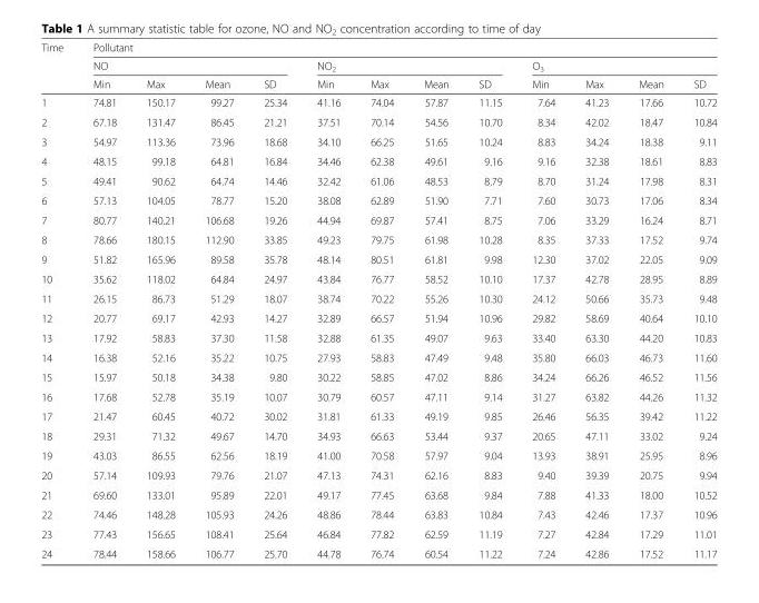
<table><thead><tr><td rowspan="3">Time</td><td colspan="12">Pollutant</td></tr><tr><td colspan="4">NO</td><td colspan="4">NO<sub>2</sub></td><td colspan="4">O<sub>3</sub></td></tr><tr><td>Min</td><td>Max</td><td>Mean</td><td>SD</td><td>Min</td><td>Max</td><td>Mean</td><td>SD</td><td>Min</td><td>Max</td><td>Mean</td><td>SD</td></tr></thead><tbody><tr><td>1</td><td>74.81</td><td>150.17</td><td>99.27</td><td>25.34</td><td>41.16</td><td>74.04</td><td>57.87</td><td>11.15</td><td>7.64</td><td>41.23</td><td>17.66</td><td>10.72</td></tr><tr><td>2</td><td>67.18</td><td>131.47</td><td>86.45</td><td>21.21</td><td>37.51</td><td>70.14</td><td>54.56</td><td>10.70</td><td>8.34</td><td>42.02</td><td>18.47</td><td>10.84</td></tr><tr><td>3</td><td>54.97</td><td>113.36</td><td>73.96</td><td>18.68</td><td>34.10</td><td>66.25</td><td>51.65</td><td>10.24</td><td>8.83</td><td>34.24</td><td>18.38</td><td>9.11</td></tr><tr><td>4</td><td>48.15</td><td>99.18</td><td>64.81</td><td>16.84</td><td>34.46</td><td>62.38</td><td>49.61</td><td>9.16</td><td>9.16</td><td>32.38</td><td>18.61</td><td>8.83</td></tr><tr><td>5</td><td>49.41</td><td>90.62</td><td>64.74</td><td>14.46</td><td>32.42</td><td>61.06</td><td>48.53</td><td>8.79</td><td>8.70</td><td>31.24</td><td>17.98</td><td>8.31</td></tr><tr><td>6</td><td>57.13</td><td>104.05</td><td>78.77</td><td>15.20</td><td>38.08</td><td>62.89</td><td>51.90</td><td>7.71</td><td>7.60</td><td>30.73</td><td>17.06</td><td>8.34</td></tr><tr><td>7</td><td>80.77</td><td>140.21</td><td>106.68</td><td>19.26</td><td>44.94</td><td>69.87</td><td>57.41</td><td>8.75</td><td>7.06</td><td>33.29</td><td>16.24</td><td>8.71</td></tr><tr><td>8</td><td>78.66</td><td>180.15</td><td>112.90</td><td>33.85</td><td>49.23</td><td>79.75</td><td>61.98</td><td>10.28</td><td>8.35</td><td>37.33</td><td>17.52</td><td>9.74</td></tr><tr><td>9</td><td>51.82</td><td>165.96</td><td>89.58</td><td>35.78</td><td>48.14</td><td>80.51</td><td>61.81</td><td>9.98</td><td>12.30</td><td>37.02</td><td>22.05</td><td>9.09</td></tr><tr><td>10</td><td>35.62</td><td>118.02</td><td>64.84</td><td>24.97</td><td>43.84</td><td>76.77</td><td>58.52</td><td>10.10</td><td>17.37</td><td>42.78</td><td>28.95</td><td>8.89</td></tr><tr><td>11</td><td>26.15</td><td>86.73</td><td>51.29</td><td>18.07</td><td>38.74</td><td>70.22</td><td>55.26</td><td>10.30</td><td>24.12</td><td>50.66</td><td>35.73</td><td>9.48</td></tr><tr><td>12</td><td>20.77</td><td>69.17</td><td>42.93</td><td>14.27</td><td>32.89</td><td>66.57</td><td>51.94</td><td>10.96</td><td>29.82</td><td>58.69</td><td>40.64</td><td>10.10</td></tr><tr><td>13</td><td>17.92</td><td>58.83</td><td>37.30</td><td>11.58</td><td>32.88</td><td>61.35</td><td>49.07</td><td>9.63</td><td>33.40</td><td>63.30</td><td>44.20</td><td>10.83</td></tr><tr><td>14</td><td>16.38</td><td>52.16</td><td>35.22</td><td>10.75</td><td>27.93</td><td>58.83</td><td>47.49</td><td>9.48</td><td>35.80</td><td>66.03</td><td>46.73</td><td>11.60</td></tr><tr><td>15</td><td>15.97</td><td>50.18</td><td>34.38</td><td>9.80</td><td>30.22</td><td>58.85</td><td>47.02</td><td>8.86</td><td>34.24</td><td>66.26</td><td>46.52</td><td>11.56</td></tr><tr><td>16</td><td>17.68</td><td>52.78</td><td>35.19</td><td>10.07</td><td>30.79</td><td>60.57</td><td>47.11</td><td>9.14</td><td>31.27</td><td>63.82</td><td>44.26</td><td>11.32</td></tr><tr><td>17</td><td>21.47</td><td>60.45</td><td>40.72</td><td>30.02</td><td>31.81</td><td>61.33</td><td>49.19</td><td>9.85</td><td>26.46</td><td>56.35</td><td>39.42</td><td>11.22</td></tr><tr><td>18</td><td>29.31</td><td>71.32</td><td>49.67</td><td>14.70</td><td>34.93</td><td>66.63</td><td>53.44</td><td>9.37</td><td>20.65</td><td>47.11</td><td>33.02</td><td>9.24</td></tr><tr><td>19</td><td>43.03</td><td>86.55</td><td>62.56</td><td>18.19</td><td>41.00</td><td>70.58</td><td>57.97</td><td>9.04</td><td>13.93</td><td>38.91</td><td>25.95</td><td>8.96</td></tr><tr><td>20</td><td>57.14</td><td>109.93</td><td>79.76</td><td>21.07</td><td>47.13</td><td>74.31</td><td>62.16</td><td>8.83</td><td>9.40</td><td>39.39</td><td>20.75</td><td>9.94</td></tr><tr><td>21</td><td>69.60</td><td>133.01</td><td>95.89</td><td>22.01</td><td>49.17</td><td>77.45</td><td>63.68</td><td>9.84</td><td>7.88</td><td>41.33</td><td>18.00</td><td>10.52</td></tr><tr><td>22</td><td>74.46</td><td>148.28</td><td>105.93</td><td>24.26</td><td>48.86</td><td>78.44</td><td>63.83</td><td>10.84</td><td>7.43</td><td>42.46</td><td>17.37</td><td>10.96</td></tr><tr><td>23</td><td>77.43</td><td>156.65</td><td>108.41</td><td>25.64</td><td>46.84</td><td>77.82</td><td>62.59</td><td>11.19</td><td>7.27</td><td>42.84</td><td>17.29</td><td>11.01</td></tr><tr><td>24</td><td>78.44</td><td>158.66</td><td>106.77</td><td>25.70</td><td>44.78</td><td>76.74</td><td>60.54</td><td>11.22</td><td>7.24</td><td>42.86</td><td>17.52</td><td>11.17</td></tr></tbody></table>